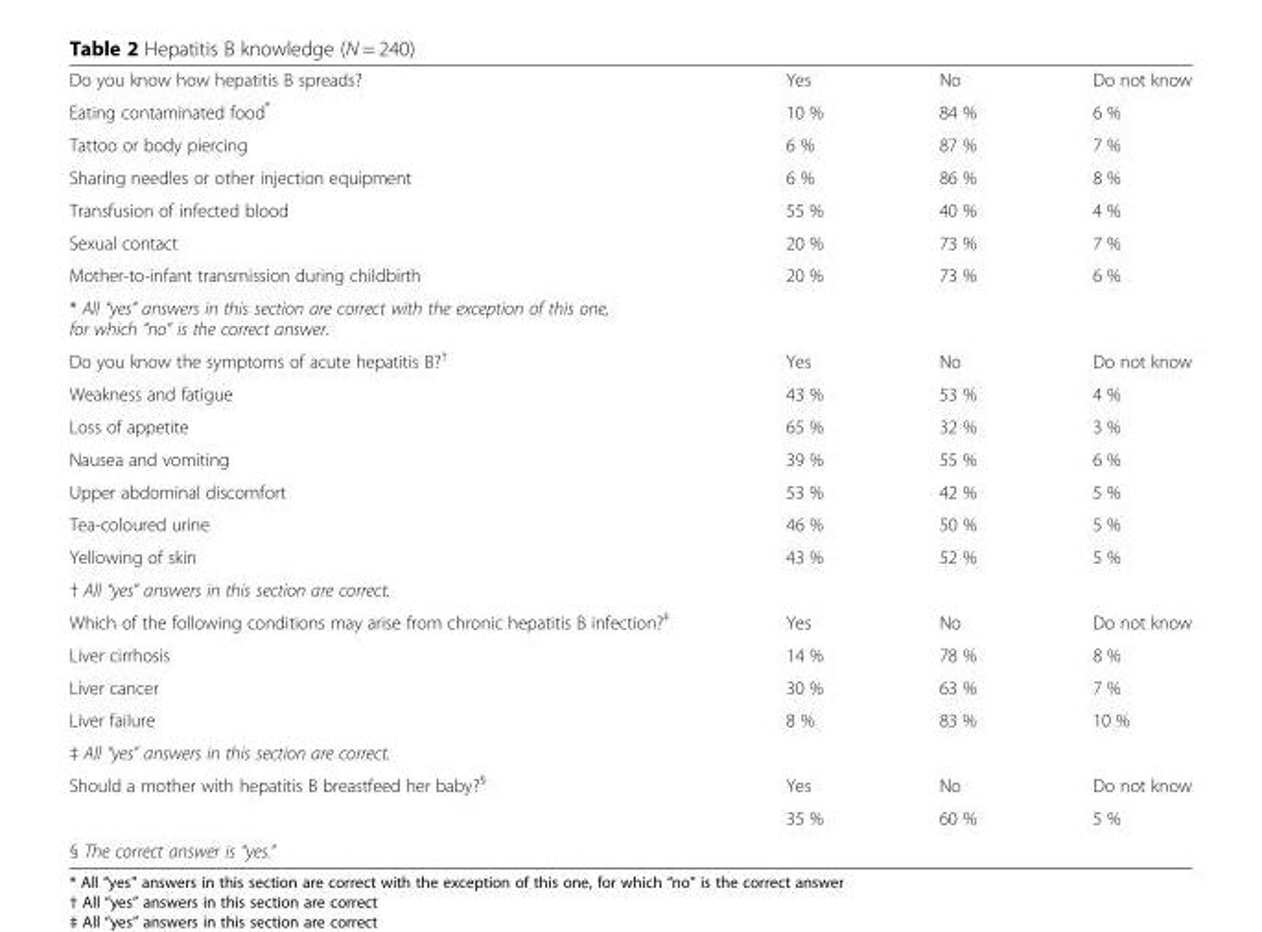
<table><tbody><tr><td>Do you know how hepatitis B spreads?</td><td>Yes</td><td>No</td><td>Do not know</td></tr><tr><td>Eating contaminated food*</td><td>10 %</td><td>84 %</td><td>6 %</td></tr><tr><td>Tattoo or body piercing</td><td>6 %</td><td>87 %</td><td>7 %</td></tr><tr><td>Sharing needles or other injection equipment</td><td>6 %</td><td>86 %</td><td>8 %</td></tr><tr><td>Transfusion of infected blood</td><td>55 %</td><td>40 %</td><td>4 %</td></tr><tr><td>Sexual contact</td><td>20 %</td><td>73 %</td><td>7 %</td></tr><tr><td>Mother-to-infant transmission during childbirth</td><td>20 %</td><td>73 %</td><td>6 %</td></tr><tr><td colspan="4">* All “yes” answers in this section are correct with the exception of this one, for which “no” is the correct answer.</td></tr><tr><td>Do you know the symptoms of acute hepatitis B?<sup>†</sup></td><td>Yes</td><td>No</td><td>Do not know</td></tr><tr><td>Weakness and fatigue</td><td>43 %</td><td>53 %</td><td>4 %</td></tr><tr><td>Loss of appetite</td><td>65 %</td><td>32 %</td><td>3 %</td></tr><tr><td>Nausea and vomiting</td><td>39 %</td><td>55 %</td><td>6 %</td></tr><tr><td>Upper abdominal discomfort</td><td>53 %</td><td>42 %</td><td>5 %</td></tr><tr><td>Tea-coloured urine</td><td>46 %</td><td>50 %</td><td>5 %</td></tr><tr><td>Yellowing of skin</td><td>43 %</td><td>52 %</td><td>5 %</td></tr><tr><td colspan="4">† All “yes” answers in this section are correct.</td></tr><tr><td>Which of the following conditions may arise from chronic hepatitis B infection?<sup>‡</sup></td><td>Yes</td><td>No</td><td>Do not know</td></tr><tr><td>Liver cirrhosis</td><td>14 %</td><td>78 %</td><td>8 %</td></tr><tr><td>Liver cancer</td><td>30 %</td><td>63 %</td><td>7 %</td></tr><tr><td>Liver failure</td><td>8 %</td><td>83 %</td><td>10 %</td></tr><tr><td colspan="4">‡ All “yes” answers in this section are correct.</td></tr><tr><td rowspan="2">Should a mother with hepatitis B breastfeed her baby?<sup>§</sup></td><td>Yes</td><td>No</td><td>Do not know</td></tr><tr><td>35 %</td><td>60 %</td><td>5 %</td></tr><tr><td>§ The correct answer is “yes.”</td><td></td><td></td><td></td></tr></tbody></table>